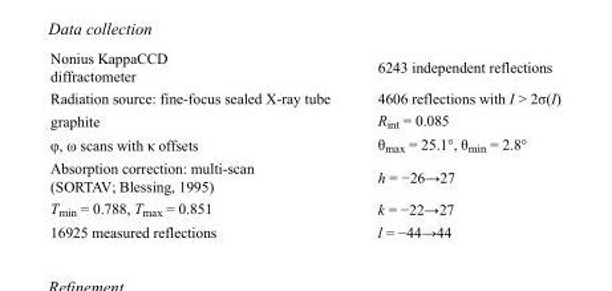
<table><tbody><tr><td>Nonius KappaCCD diffractometer</td><td>6243 independent reflections</td></tr><tr><td>Radiation source: fine-focus sealed X-ray tube</td><td>4606 reflections with I &gt; 2σ(I)</td></tr><tr><td>graphite</td><td>R<sub>int</sub> = 0.085</td></tr><tr><td>φ, ω scans with κ offsets</td><td>θ<sub>max</sub> = 25.1°, θ<sub>min</sub> = 2.8°</td></tr><tr><td>Absorption correction: multi-scan (SORTAV; Blessing, 1995)</td><td>h = −26→27</td></tr><tr><td>T<sub>min</sub> = 0.788, T<sub>max</sub> = 0.851</td><td>k = −22→27</td></tr><tr><td>16925 measured reflections</td><td>l = −44→44</td></tr></tbody></table>